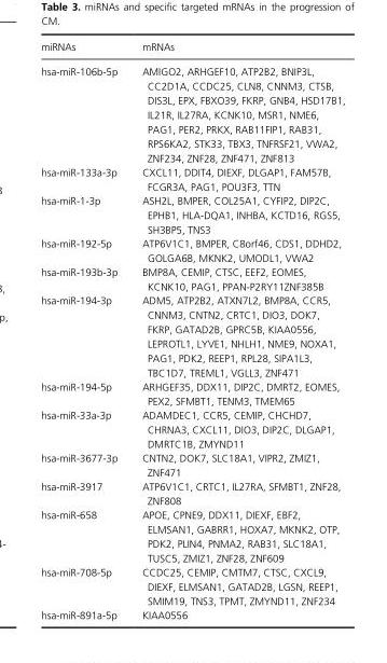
<table><thead><tr><td>miRNAs</td><td>mRNAs</td></tr></thead><tbody><tr><td>hsa- miR- 106b- 5p</td><td>AMIGO2, ARHGEF10, ATP2B2, BNIP3L, CC2D1A, CCDC25, CLN8, CNNM3, CTSB, DIS3L, EPX, FBXO39, FKRP, GNB4, HSD17B1, IL21R, IL27RA, KCNK10, MSR1, NME6, PAG1, PER2, PRKX, RAB11FIP1, RAB31, RPS6KA2, STK33, TBX3, TNFRSF21, VWA2, ZNF234, ZNF28, ZNF471, ZNF813</td></tr><tr><td>hsa- miR- 133a- 3p</td><td>CXCL11, DDIT4, DIEXF, DLGAP1, FAM57B, FCGR3A, PAG1, POU3F3, TTN</td></tr><tr><td>hsa- miR- 1- 3p</td><td>ASH2L, BMPER, COL25A1, CYFIP2, DIP2C, EPHB1, HLA- DQA1, INHBA, KCTD16, RGS5, SH3BP5, TNS3</td></tr><tr><td>hsa- miR- 192- 5p</td><td>ATP6V1C1, BMPER, C8orf46, CDS1, DDHD2, GOLGA6B, MKNK2, UMODL1, VWA2</td></tr><tr><td>hsa- miR- 193b- 3p</td><td>BMP8A, CEMIP, CTSC, EEF2, EOMES, KCNK10, PAG1, PPAN- P2RY11ZNF385B</td></tr><tr><td>hsa- miR- 194- 3p</td><td>ADM5, ATP2B2, ATXN7L2, BMP8A, CCR5, CNNM3, CNTN2, CRTC1, DIO3, DOK7, FKRP, GATAD2B, GPRC5B, KIAA0556, LEPROTL1, LYVE1, NHLH1, NME9, NOXA1, PAG1, PDK2, REEP1, RPL28, SIPA1L3, TBC1D7, TREML1, VGLL3, ZNF471</td></tr><tr><td>hsa- miR- 194- 5p</td><td>ARHGEF35, DDX11, DIP2C, DMRT2, EOMES, PEX2, SFMBT1, TENM3, TMEM65</td></tr><tr><td>hsa- miR- 33a- 3p</td><td>ADAMDEC1, CCR5, CEMIP, CHCHD7, CHRNA3, CXCL11, DIO3, DIP2C, DLGAP1, DMRTC1B, ZMYND11</td></tr><tr><td>hsa- miR- 3677- 3p</td><td>CNTN2, DOK7, SLC18A1, VIPR2, ZMIZ1, ZNF471</td></tr><tr><td>hsa- miR- 3917</td><td>ATP6V1C1, CRTC1, IL27RA, SFMBT1, ZNF28, ZNF808</td></tr><tr><td>hsa- miR- 658</td><td>APOE, CPNE9, DDX11, DIEXF, EBF2, ELMSAN1, GABRR1, HOXA7, MKNK2, OTP, PDK2, PLIN4, PNMA2, RAB31, SLC18A1, TUSC5, ZMIZ1, ZNF28, ZNF609</td></tr><tr><td>hsa- miR- 708- 5p</td><td>CCDC25, CEMIP, CMTM7, CTSC, CXCL9, DIEXF, ELMSAN1, GATAD2B, LGSN, REEP1, SMIM19, TNS3, TPMT, ZMYND11, ZNF234</td></tr><tr><td>hsa- miR- 891a- 5p</td><td>KIAA0556</td></tr></tbody></table>